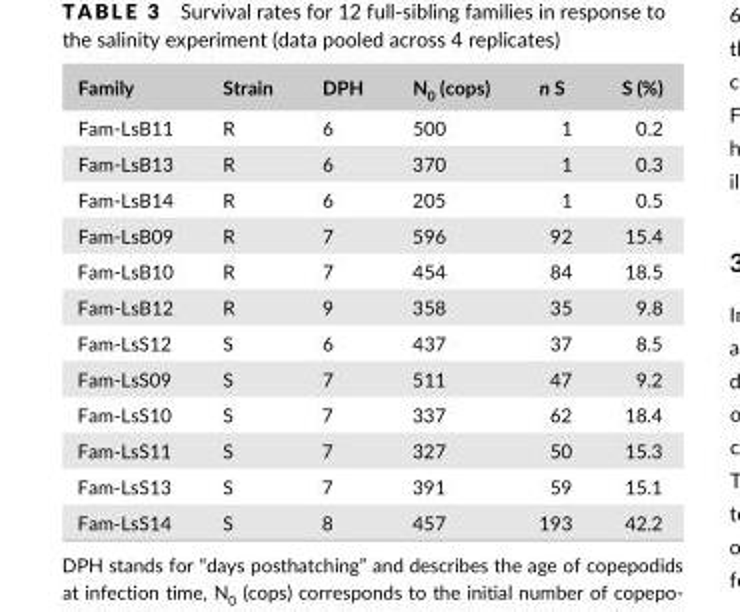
<table><thead><tr><td>Family</td><td>Strain</td><td>DPH</td><td>N<sub>0</sub> (cops)</td><td>n S</td><td>S (%)</td></tr></thead><tbody><tr><td>Fam- LsB11</td><td>R</td><td>6</td><td>500</td><td>1</td><td>0.2</td></tr><tr><td>Fam- LsB13</td><td>R</td><td>6</td><td>370</td><td>1</td><td>0.3</td></tr><tr><td>Fam- LsB14</td><td>R</td><td>6</td><td>205</td><td>1</td><td>0.5</td></tr><tr><td>Fam- LsB09</td><td>R</td><td>7</td><td>596</td><td>92</td><td>15.4</td></tr><tr><td>Fam- LsB10</td><td>R</td><td>7</td><td>454</td><td>84</td><td>18.5</td></tr><tr><td>Fam- LsB12</td><td>R</td><td>9</td><td>358</td><td>35</td><td>9.8</td></tr><tr><td>Fam- LsS12</td><td>S</td><td>6</td><td>437</td><td>37</td><td>8.5</td></tr><tr><td>Fam- LsS09</td><td>S</td><td>7</td><td>511</td><td>47</td><td>9.2</td></tr><tr><td>Fam- LsS10</td><td>S</td><td>7</td><td>337</td><td>62</td><td>18.4</td></tr><tr><td>Fam- LsS11</td><td>S</td><td>7</td><td>327</td><td>50</td><td>15.3</td></tr><tr><td>Fam- LsS13</td><td>S</td><td>7</td><td>391</td><td>59</td><td>15.1</td></tr><tr><td>Fam- LsS14</td><td>S</td><td>8</td><td>457</td><td>193</td><td>42.2</td></tr></tbody></table>